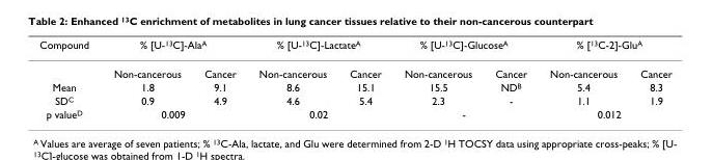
<table><thead><tr><td rowspan="2">Compound</td><td colspan="2">% [U-<sup>13</sup>C]-Ala<sup>A</sup></td><td colspan="2">% [U-<sup>13</sup>C]-Lactate<sup>A</sup></td><td colspan="2">% [U-<sup>13</sup>C]-Glucose<sup>A</sup></td><td colspan="2">% [<sup>13</sup>C-2]-Glu<sup>A</sup></td></tr><tr><td>Non-cancerous</td><td>Cancer</td><td>Non-cancerous</td><td>Cancer</td><td>Non-cancerous</td><td>Cancer</td><td>Non-cancerous</td><td>Cancer</td></tr></thead><tbody><tr><td>Mean</td><td>1.8</td><td>9.1</td><td>8.6</td><td>15.1</td><td>15.5</td><td>ND<sup>B</sup></td><td>5.4</td><td>8.3</td></tr><tr><td>SD<sup>C</sup></td><td>0.9</td><td>4.9</td><td>4.6</td><td>5.4</td><td>2.3</td><td>-</td><td>1.1</td><td>1.9</td></tr><tr><td>p value<sup>D</sup></td><td colspan="2">0.009</td><td colspan="2">0.02</td><td colspan="2">-</td><td colspan="2">0.012</td></tr></tbody></table>